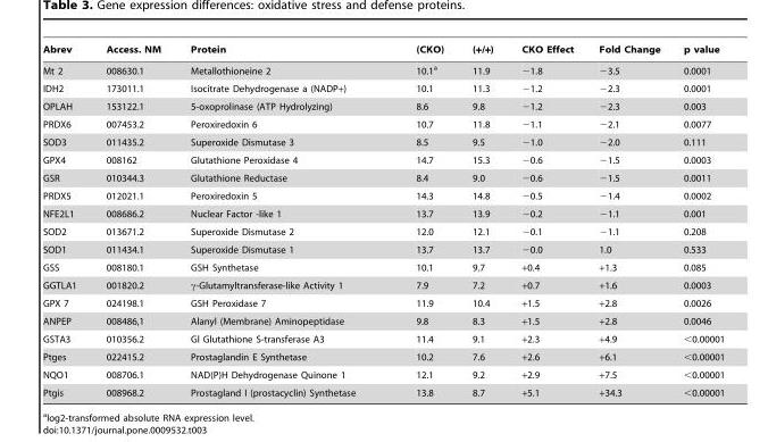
<table><thead><tr><td>Abrev</td><td>Access. NM</td><td>Protein</td><td>(CKO)</td><td>(+/+)</td><td>CKO Effect</td><td>Fold Change</td><td>p value</td></tr></thead><tbody><tr><td>Mt 2</td><td>008630.1</td><td>Metallothioneine 2</td><td>10.1<sup>a</sup></td><td>11.9</td><td>−1.8</td><td>−3.5</td><td>0.0001</td></tr><tr><td>IDH2</td><td>173011.1</td><td>Isocitrate Dehydrogenase a (NADP+)</td><td>10.1</td><td>11.3</td><td>−1.2</td><td>−2.3</td><td>0.0001</td></tr><tr><td>OPLAH</td><td>153122.1</td><td>5-oxoprolinase (ATP Hydrolyzing)</td><td>8.6</td><td>9.8</td><td>−1.2</td><td>−2.3</td><td>0.003</td></tr><tr><td>PRDX6</td><td>007453.2</td><td>Peroxiredoxin 6</td><td>10.7</td><td>11.8</td><td>−1.1</td><td>−2.1</td><td>0.0077</td></tr><tr><td>SOD3</td><td>011435.2</td><td>Superoxide Dismutase 3</td><td>8.5</td><td>9.5</td><td>−1.0</td><td>−2.0</td><td>0.111</td></tr><tr><td>GPX4</td><td>008162</td><td>Glutathione Peroxidase 4</td><td>14.7</td><td>15.3</td><td>−0.6</td><td>−1.5</td><td>0.0003</td></tr><tr><td>GSR</td><td>010344.3</td><td>Glutathione Reductase</td><td>8.4</td><td>9.0</td><td>−0.6</td><td>−1.5</td><td>0.0011</td></tr><tr><td>PRDX5</td><td>012021.1</td><td>Peroxiredoxin 5</td><td>14.3</td><td>14.8</td><td>−0.5</td><td>−1.4</td><td>0.0002</td></tr><tr><td>NFE2L1</td><td>008686.2</td><td>Nuclear Factor -like 1</td><td>13.7</td><td>13.9</td><td>−0.2</td><td>−1.1</td><td>0.001</td></tr><tr><td>SOD2</td><td>013671.2</td><td>Superoxide Dismutase 2</td><td>12.0</td><td>12.1</td><td>−0.1</td><td>−1.1</td><td>0.208</td></tr><tr><td>SOD1</td><td>011434.1</td><td>Superoxide Dismutase 1</td><td>13.7</td><td>13.7</td><td>−0.0</td><td>1.0</td><td>0.533</td></tr><tr><td>GSS</td><td>008180.1</td><td>GSH Synthetase</td><td>10.1</td><td>9.7</td><td>+0.4</td><td>+1.3</td><td>0.085</td></tr><tr><td>GGTLA1</td><td>001820.2</td><td>γ-Glutamyltransferase-like Activity 1</td><td>7.9</td><td>7.2</td><td>+0.7</td><td>+1.6</td><td>0.0003</td></tr><tr><td>GPX 7</td><td>024198.1</td><td>GSH Peroxidase 7</td><td>11.9</td><td>10.4</td><td>+1.5</td><td>+2.8</td><td>0.0026</td></tr><tr><td>ANPEP</td><td>008486,1</td><td>Alanyl (Membrane) Aminopeptidase</td><td>9.8</td><td>8.3</td><td>+1.5</td><td>+2.8</td><td>0.0046</td></tr><tr><td>GSTA3</td><td>010356.2</td><td>Gl Glutathione S-transferase A3</td><td>11.4</td><td>9.1</td><td>+2.3</td><td>+4.9</td><td>&lt;0.00001</td></tr><tr><td>Ptges</td><td>022415.2</td><td>Prostaglandin E Synthetase</td><td>10.2</td><td>7.6</td><td>+2.6</td><td>+6.1</td><td>&lt;0.00001</td></tr><tr><td>NQO1</td><td>008706.1</td><td>NAD(P)H Dehydrogenase Quinone 1</td><td>12.1</td><td>9.2</td><td>+2.9</td><td>+7.5</td><td>&lt;0.00001</td></tr><tr><td>Ptgis</td><td>008968.2</td><td>Prostagland I (prostacyclin) Synthetase</td><td>13.8</td><td>8.7</td><td>+5.1</td><td>+34.3</td><td>&lt;0.00001</td></tr></tbody></table>